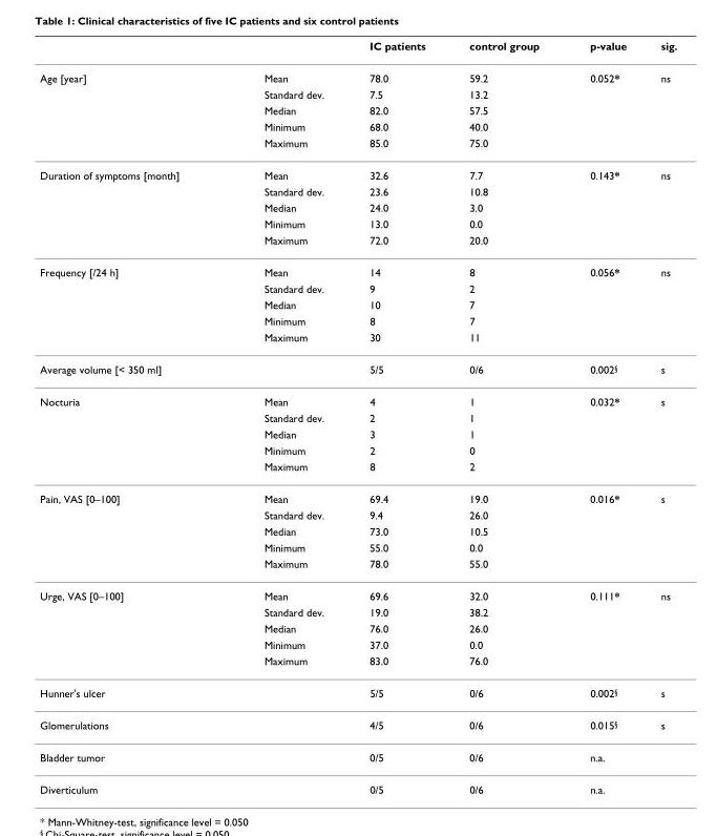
<table><thead><tr><td></td><td></td><td>IC patients</td><td>control group</td><td>p-value</td><td>sig.</td></tr></thead><tbody><tr><td rowspan="5">Age [year]</td><td>Mean</td><td>78.0</td><td>59.2</td><td>0.052*</td><td>ns</td></tr><tr><td>Standard dev.</td><td>7.5</td><td>13.2</td><td></td><td></td></tr><tr><td>Median</td><td>82.0</td><td>57.5</td><td></td><td></td></tr><tr><td>Minimum</td><td>68.0</td><td>40.0</td><td></td><td></td></tr><tr><td>Maximum</td><td>85.0</td><td>75.0</td><td></td><td></td></tr><tr><td rowspan="5">Duration of symptoms [month]</td><td>Mean</td><td>32.6</td><td>7.7</td><td>0.143*</td><td>ns</td></tr><tr><td>Standard dev.</td><td>23.6</td><td>10.8</td><td></td><td></td></tr><tr><td>Median</td><td>24.0</td><td>3.0</td><td></td><td></td></tr><tr><td>Minimum</td><td>13.0</td><td>0.0</td><td></td><td></td></tr><tr><td>Maximum</td><td>72.0</td><td>20.0</td><td></td><td></td></tr><tr><td rowspan="5">Frequency [/24 h]</td><td>Mean</td><td>14</td><td>8</td><td>0.056*</td><td>ns</td></tr><tr><td>Standard dev.</td><td>9</td><td>2</td><td></td><td></td></tr><tr><td>Median</td><td>10</td><td>7</td><td></td><td></td></tr><tr><td>Minimum</td><td>8</td><td>7</td><td></td><td></td></tr><tr><td>Maximum</td><td>30</td><td>11</td><td></td><td></td></tr><tr><td>Average volume [&lt; 350 ml]</td><td></td><td>5/5</td><td>0/6</td><td>0.002<sup>§</sup></td><td>s</td></tr><tr><td rowspan="5">Nocturia</td><td>Mean</td><td>4</td><td>1</td><td>0.032*</td><td>s</td></tr><tr><td>Standard dev.</td><td>2</td><td>1</td><td></td><td></td></tr><tr><td>Median</td><td>3</td><td>1</td><td></td><td></td></tr><tr><td>Minimum</td><td>2</td><td>0</td><td></td><td></td></tr><tr><td>Maximum</td><td>8</td><td>2</td><td></td><td></td></tr><tr><td rowspan="5">Pain, VAS [0–100]</td><td>Mean</td><td>69.4</td><td>19.0</td><td>0.016*</td><td>s</td></tr><tr><td>Standard dev.</td><td>9.4</td><td>26.0</td><td></td><td></td></tr><tr><td>Median</td><td>73.0</td><td>10.5</td><td></td><td></td></tr><tr><td>Minimum</td><td>55.0</td><td>0.0</td><td></td><td></td></tr><tr><td>Maximum</td><td>78.0</td><td>55.0</td><td></td><td></td></tr><tr><td rowspan="5">Urge, VAS [0–100]</td><td>Mean</td><td>69.6</td><td>32.0</td><td>0.111*</td><td>ns</td></tr><tr><td>Standard dev.</td><td>19.0</td><td>38.2</td><td></td><td></td></tr><tr><td>Median</td><td>76.0</td><td>26.0</td><td></td><td></td></tr><tr><td>Minimum</td><td>37.0</td><td>0.0</td><td></td><td></td></tr><tr><td>Maximum</td><td>83.0</td><td>76.0</td><td></td><td></td></tr><tr><td>Hunner&#x27;s ulcer</td><td></td><td>5/5</td><td>0/6</td><td>0.002<sup>§</sup></td><td>s</td></tr><tr><td>Glomerulations</td><td></td><td>4/5</td><td>0/6</td><td>0.015<sup>§</sup></td><td>s</td></tr><tr><td>Bladder tumor</td><td></td><td>0/5</td><td>0/6</td><td>n.a.</td><td></td></tr><tr><td>Diverticulum</td><td></td><td>0/5</td><td>0/6</td><td>n.a.</td><td></td></tr></tbody></table>